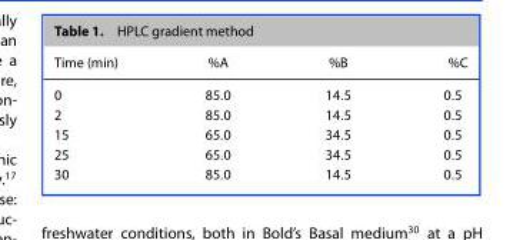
<table><thead><tr><td>Time (min)</td><td>%A</td><td>%B</td><td>%C</td></tr></thead><tbody><tr><td>0</td><td>85.0</td><td>14.5</td><td>0.5</td></tr><tr><td>2</td><td>85.0</td><td>14.5</td><td>0.5</td></tr><tr><td>15</td><td>65.0</td><td>34.5</td><td>0.5</td></tr><tr><td>25</td><td>65.0</td><td>34.5</td><td>0.5</td></tr><tr><td>30</td><td>85.0</td><td>14.5</td><td>0.5</td></tr></tbody></table>